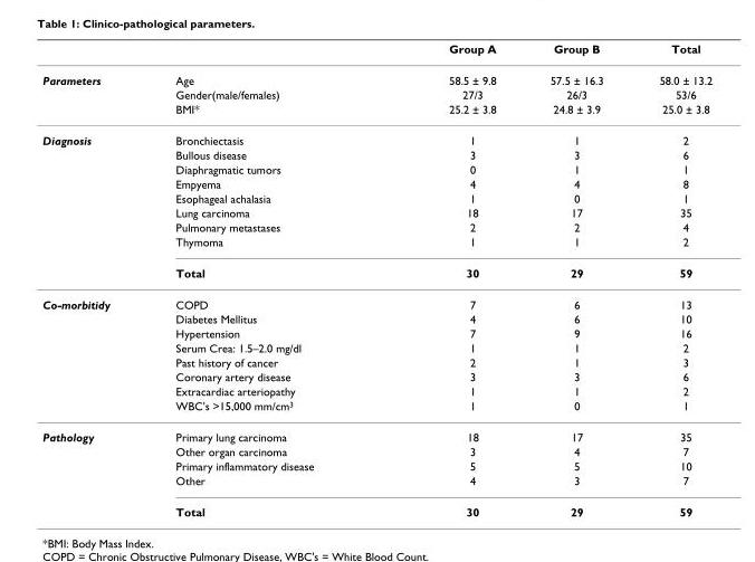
<table><thead><tr><td></td><td></td><td>Group A</td><td>Group B</td><td>Total</td></tr></thead><tbody><tr><td rowspan="3">Parameters</td><td>Age</td><td>58.5 ± 9.8</td><td>57.5 ± 16.3</td><td>58.0 ± 13.2</td></tr><tr><td>Gender(male/females)</td><td>27/3</td><td>26/3</td><td>53/6</td></tr><tr><td>BMI*</td><td>25.2 ± 3.8</td><td>24.8 ± 3.9</td><td>25.0 ± 3.8</td></tr><tr><td rowspan="9">Diagnosis</td><td>Bronchiectasis</td><td>1</td><td>1</td><td>2</td></tr><tr><td>Bullous disease</td><td>3</td><td>3</td><td>6</td></tr><tr><td>Diaphragmatic tumors</td><td>0</td><td>1</td><td>1</td></tr><tr><td>Empyema</td><td>4</td><td>4</td><td>8</td></tr><tr><td>Esophageal achalasia</td><td>1</td><td>0</td><td>1</td></tr><tr><td>Lung carcinoma</td><td>18</td><td>17</td><td>35</td></tr><tr><td>Pulmonary metastases</td><td>2</td><td>2</td><td>4</td></tr><tr><td>Thymoma</td><td>1</td><td>1</td><td>2</td></tr><tr><td>Total</td><td>30</td><td>29</td><td>59</td></tr><tr><td rowspan="8">Co-morbitidy</td><td>COPD</td><td>7</td><td>6</td><td>13</td></tr><tr><td>Diabetes Mellitus</td><td>4</td><td>6</td><td>10</td></tr><tr><td>Hypertension</td><td>7</td><td>9</td><td>16</td></tr><tr><td>Serum Crea: 1.5–2.0 mg/dl</td><td>1</td><td>1</td><td>2</td></tr><tr><td>Past history of cancer</td><td>2</td><td>1</td><td>3</td></tr><tr><td>Coronary artery disease</td><td>3</td><td>3</td><td>6</td></tr><tr><td>Extracardiac arteriopathy</td><td>1</td><td>1</td><td>2</td></tr><tr><td>WBC&#x27;s &gt;15,000 mm/cm<sup>3</sup></td><td>1</td><td>0</td><td>1</td></tr><tr><td rowspan="5">Pathology</td><td>Primary lung carcinoma</td><td>18</td><td>17</td><td>35</td></tr><tr><td>Other organ carcinoma</td><td>3</td><td>4</td><td>7</td></tr><tr><td>Primary inflammatory disease</td><td>5</td><td>5</td><td>10</td></tr><tr><td>Other</td><td>4</td><td>3</td><td>7</td></tr><tr><td>Total</td><td>30</td><td>29</td><td>59</td></tr></tbody></table>